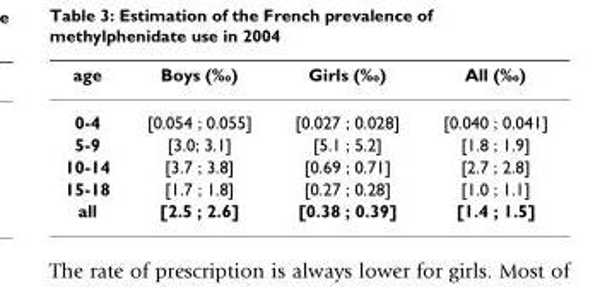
<table><thead><tr><td>age</td><td>Boys (‰)</td><td>Girls (‰)</td><td>All (‰)</td></tr></thead><tbody><tr><td>0-4</td><td>[0.054 ; 0.055]</td><td>[0.027 ; 0.028]</td><td>[0.040 ; 0.041]</td></tr><tr><td>5-9</td><td>[3.0; 3.1]</td><td>[5.1 ; 5.2]</td><td>[1.8 ; 1.9]</td></tr><tr><td>10-14</td><td>[3.7 ; 3.8]</td><td>[0.69 ; 0.71]</td><td>[2.7 ; 2.8]</td></tr><tr><td>15-18</td><td>[1.7 ; 1.8]</td><td>[0.27 ; 0.28]</td><td>[1.0 ; 1.1]</td></tr><tr><td>all</td><td>[2.5 ; 2.6]</td><td>[0.38 ; 0.39]</td><td>[1.4 ; 1.5]</td></tr></tbody></table>